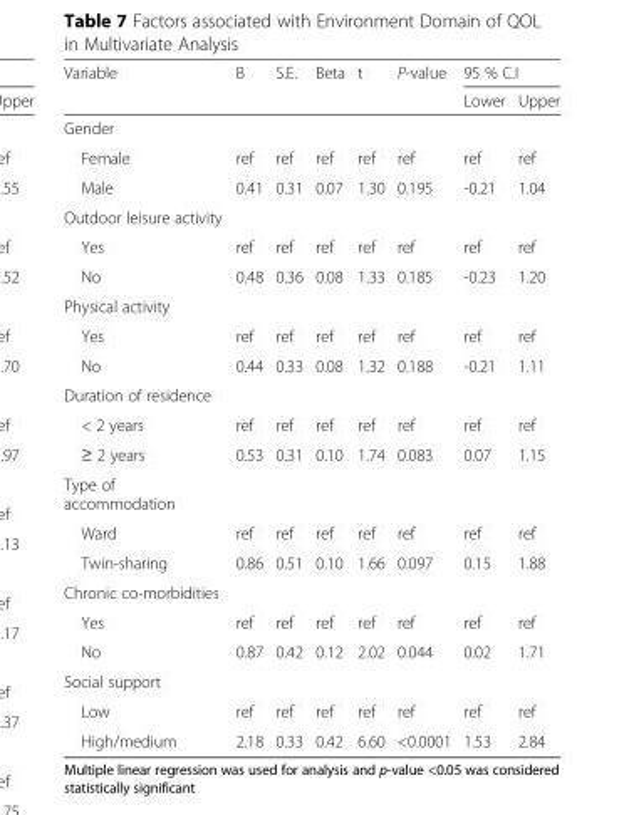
<table><thead><tr><td rowspan="2">Variable</td><td rowspan="2">B</td><td rowspan="2">S.E.</td><td rowspan="2">Beta</td><td rowspan="2">t</td><td rowspan="2">P-value</td><td colspan="2">95 % C.I</td></tr><tr><td>Lower</td><td>Upper</td></tr></thead><tbody><tr><td colspan="8">Gender</td></tr><tr><td>Female</td><td>ref</td><td>ref</td><td>ref</td><td>ref</td><td>ref</td><td>ref</td><td>ref</td></tr><tr><td>Male</td><td>0.41</td><td>0.31</td><td>0.07</td><td>1.30</td><td>0.195</td><td>-0.21</td><td>1.04</td></tr><tr><td colspan="8">Outdoor leisure activity</td></tr><tr><td>Yes</td><td>ref</td><td>ref</td><td>ref</td><td>ref</td><td>ref</td><td>ref</td><td>ref</td></tr><tr><td>No</td><td>0.48</td><td>0.36</td><td>0.08</td><td>1.33</td><td>0.185</td><td>-0.23</td><td>1.20</td></tr><tr><td colspan="8">Physical activity</td></tr><tr><td>Yes</td><td>ref</td><td>ref</td><td>ref</td><td>ref</td><td>ref</td><td>ref</td><td>ref</td></tr><tr><td>No</td><td>0.44</td><td>0.33</td><td>0.08</td><td>1.32</td><td>0.188</td><td>-0.21</td><td>1.11</td></tr><tr><td colspan="8">Duration of residence</td></tr><tr><td>&lt; 2 years</td><td>ref</td><td>ref</td><td>ref</td><td>ref</td><td>ref</td><td>ref</td><td>ref</td></tr><tr><td>≥ 2 years</td><td>0.53</td><td>0.31</td><td>0.10</td><td>1.74</td><td>0.083</td><td>0.07</td><td>1.15</td></tr><tr><td colspan="8">Type of accommodation</td></tr><tr><td>Ward</td><td>ref</td><td>ref</td><td>ref</td><td>ref</td><td>ref</td><td>ref</td><td>ref</td></tr><tr><td>Twin-sharing</td><td>0.86</td><td>0.51</td><td>0.10</td><td>1.66</td><td>0.097</td><td>0.15</td><td>1.88</td></tr><tr><td colspan="8">Chronic co-morbidities</td></tr><tr><td>Yes</td><td>ref</td><td>ref</td><td>ref</td><td>ref</td><td>ref</td><td>ref</td><td>ref</td></tr><tr><td>No</td><td>0.87</td><td>0.42</td><td>0.12</td><td>2.02</td><td>0.044</td><td>0.02</td><td>1.71</td></tr><tr><td colspan="8">Social support</td></tr><tr><td>Low</td><td>ref</td><td>ref</td><td>ref</td><td>ref</td><td>ref</td><td>ref</td><td>ref</td></tr><tr><td>High/medium</td><td>2.18</td><td>0.33</td><td>0.42</td><td>6.60</td><td>&lt;0.0001</td><td>1.53</td><td>2.84</td></tr></tbody></table>